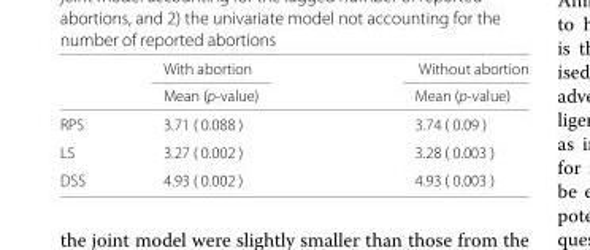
<table><thead><tr><td rowspan="2"></td><td rowspan="2">With abortion Mean (p-value)</td><td rowspan="2">Without abortion Mean (p-value)</td></tr><tr></tr></thead><tbody><tr><td>RPS</td><td>3.71 ( 0.088 )</td><td>3.74 ( 0.09 )</td></tr><tr><td>LS</td><td>3.27 ( 0.002 )</td><td>3.28 ( 0.003 )</td></tr><tr><td>DSS</td><td>4.93 ( 0.002 )</td><td>4.93 ( 0.003 )</td></tr></tbody></table>